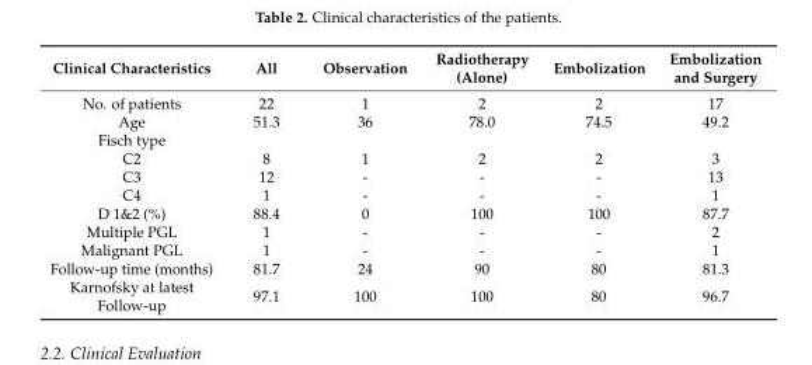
<table><thead><tr><td>Clinical Characteristics</td><td>All</td><td>Observation</td><td>Radiotherapy (Alone)</td><td>Embolization</td><td>Embolization and Surgery</td></tr></thead><tbody><tr><td>No. of patients</td><td>22</td><td>1</td><td>2</td><td>2</td><td>17</td></tr><tr><td>Age</td><td>51.3</td><td>36</td><td>78.0</td><td>74.5</td><td>49.2</td></tr><tr><td colspan="6">Fisch type</td></tr><tr><td>C2</td><td>8</td><td>1</td><td>2</td><td>2</td><td>3</td></tr><tr><td>C3</td><td>12</td><td>-</td><td>-</td><td>-</td><td>13</td></tr><tr><td>C4</td><td>1</td><td>-</td><td>-</td><td>-</td><td>1</td></tr><tr><td>D 1&amp;2 (%)</td><td>88.4</td><td>0</td><td>100</td><td>100</td><td>87.7</td></tr><tr><td>Multiple PGL</td><td>1</td><td>-</td><td>-</td><td>-</td><td>2</td></tr><tr><td>Malignant PGL</td><td>1</td><td>-</td><td>-</td><td>-</td><td>1</td></tr><tr><td>Follow-up time (months)</td><td>81.7</td><td>24</td><td>90</td><td>80</td><td>81.3</td></tr><tr><td>Karnofsky at latest Follow-up</td><td>97.1</td><td>100</td><td>100</td><td>80</td><td>96.7</td></tr></tbody></table>